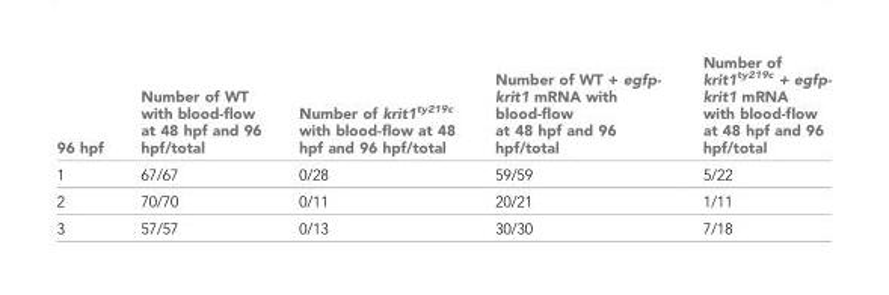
<table><thead><tr><td>96 hpf</td><td>Number of WT with blood-flow at 48 hpf and 96 hpf/total</td><td>Number of krit1<sup>ty219c</sup> with blood-flow at 48 hpf and 96 hpf/total</td><td>Number of WT + egfp- krit1 mRNA with blood-flow at 48 hpf and 96 hpf/total</td><td>Number of krit1<sup>ty219c</sup> + egfp- krit1 mRNA with blood-flow at 48 hpf and 96 hpf/total</td></tr></thead><tbody><tr><td>1</td><td>67/67</td><td>0/28</td><td>59/59</td><td>5/22</td></tr><tr><td>2</td><td>70/70</td><td>0/11</td><td>20/21</td><td>1/11</td></tr><tr><td>3</td><td>57/57</td><td>0/13</td><td>30/30</td><td>7/18</td></tr></tbody></table>